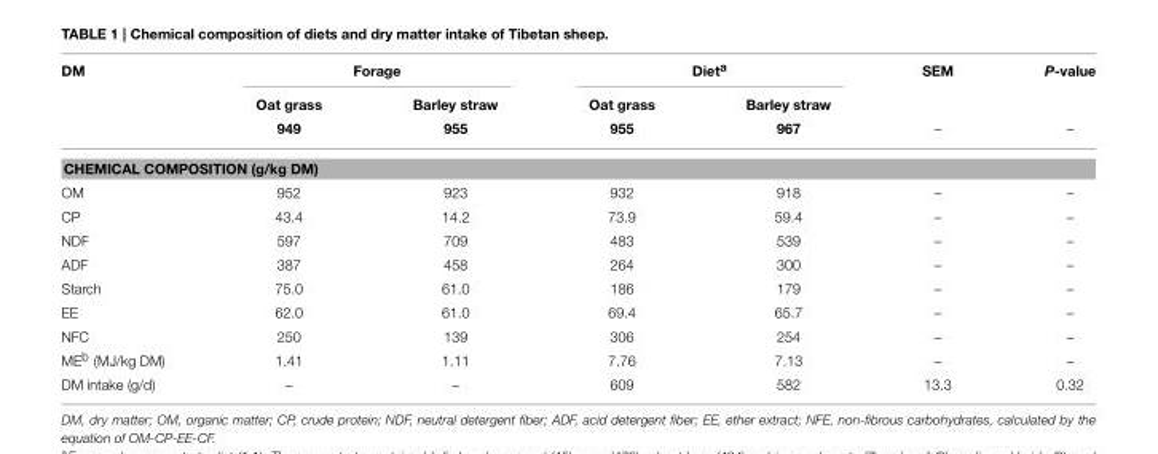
<table><thead><tr><td rowspan="3">DM</td><td colspan="2">Forage</td><td colspan="2">Diet<sup>a</sup></td><td rowspan="3">SEM –</td><td rowspan="3">P-value –</td></tr><tr><td rowspan="2">Oat grass 949</td><td rowspan="2">Barley straw 955</td><td rowspan="2">Oat grass 955</td><td rowspan="2">Barley straw 967</td></tr><tr></tr></thead><tbody><tr><td colspan="7">CHEMICAL COMPOSITION (g/kg DM)</td></tr><tr><td>OM</td><td>952</td><td>923</td><td>932</td><td>918</td><td>–</td><td>–</td></tr><tr><td>CP</td><td>43.4</td><td>14.2</td><td>73.9</td><td>59.4</td><td>–</td><td>–</td></tr><tr><td>NDF</td><td>597</td><td>709</td><td>483</td><td>539</td><td>–</td><td>–</td></tr><tr><td>ADF</td><td>387</td><td>458</td><td>264</td><td>300</td><td>–</td><td>–</td></tr><tr><td>Starch</td><td>75.0</td><td>61.0</td><td>186</td><td>179</td><td>–</td><td>–</td></tr><tr><td>EE</td><td>62.0</td><td>61.0</td><td>69.4</td><td>65.7</td><td>–</td><td>–</td></tr><tr><td>NFC</td><td>250</td><td>139</td><td>306</td><td>254</td><td>–</td><td>–</td></tr><tr><td>ME<sup>b</sup> (MJ/kg DM)</td><td>1.41</td><td>1.11</td><td>7.76</td><td>7.13</td><td>–</td><td>–</td></tr><tr><td>DM intake (g/d)</td><td>–</td><td>–</td><td>609</td><td>582</td><td>13.3</td><td>0.32</td></tr></tbody></table>